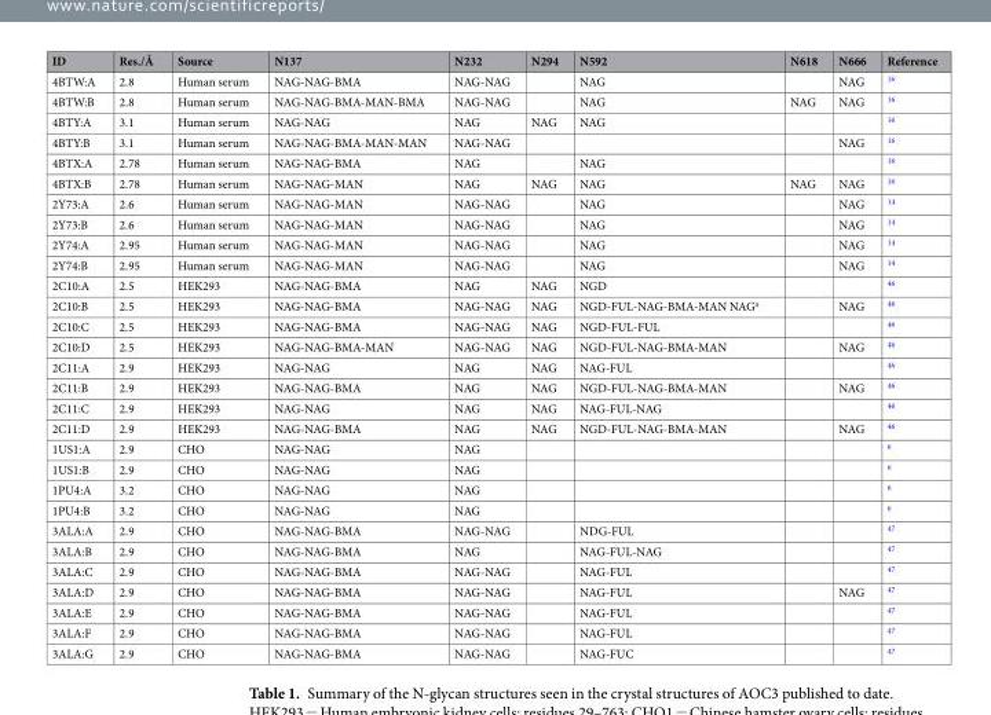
<table><thead><tr><td>ID</td><td>Res./Å</td><td>Source</td><td>N137</td><td>N232</td><td>N294</td><td>N592</td><td>N618</td><td>N666</td><td>Reference</td></tr></thead><tbody><tr><td>4BTW:A</td><td>2.8</td><td>Human serum</td><td>NAG-NAG-BMA</td><td>NAG-NAG</td><td></td><td>NAG</td><td></td><td>NAG</td><td><sup>16</sup></td></tr><tr><td>4BTW:B</td><td>2.8</td><td>Human serum</td><td>NAG-NAG-BMA-MAN-BMA</td><td>NAG-NAG</td><td></td><td>NAG</td><td>NAG</td><td>NAG</td><td><sup>16</sup></td></tr><tr><td>4BTY:A</td><td>3.1</td><td>Human serum</td><td>NAG-NAG</td><td>NAG</td><td>NAG</td><td>NAG</td><td></td><td></td><td><sup>16</sup></td></tr><tr><td>4BTY:B</td><td>3.1</td><td>Human serum</td><td>NAG-NAG-BMA-MAN-MAN</td><td>NAG-NAG</td><td></td><td></td><td></td><td>NAG</td><td><sup>16</sup></td></tr><tr><td>4BTX:A</td><td>2.78</td><td>Human serum</td><td>NAG-NAG-BMA</td><td>NAG</td><td></td><td>NAG</td><td></td><td></td><td><sup>16</sup></td></tr><tr><td>4BTX:B</td><td>2.78</td><td>Human serum</td><td>NAG-NAG-MAN</td><td>NAG</td><td>NAG</td><td>NAG</td><td>NAG</td><td>NAG</td><td><sup>16</sup></td></tr><tr><td>2Y73:A</td><td>2.6</td><td>Human serum</td><td>NAG-NAG-MAN</td><td>NAG-NAG</td><td></td><td>NAG</td><td></td><td>NAG</td><td><sup>14</sup></td></tr><tr><td>2Y73:B</td><td>2.6</td><td>Human serum</td><td>NAG-NAG-MAN</td><td>NAG-NAG</td><td></td><td>NAG</td><td></td><td>NAG</td><td><sup>14</sup></td></tr><tr><td>2Y74:A</td><td>2.95</td><td>Human serum</td><td>NAG-NAG-MAN</td><td>NAG-NAG</td><td></td><td>NAG</td><td></td><td>NAG</td><td><sup>14</sup></td></tr><tr><td>2Y74:B</td><td>2.95</td><td>Human serum</td><td>NAG-NAG-MAN</td><td>NAG-NAG</td><td></td><td>NAG</td><td></td><td>NAG</td><td><sup>14</sup></td></tr><tr><td>2C10:A</td><td>2.5</td><td>HEK293</td><td>NAG-NAG-BMA</td><td>NAG</td><td>NAG</td><td>NGD</td><td></td><td></td><td><sup>46</sup></td></tr><tr><td>2C10:B</td><td>2.5</td><td>HEK293</td><td>NAG-NAG-BMA</td><td>NAG-NAG</td><td>NAG</td><td>NGD-FUL-NAG-BMA-MAN NAG<sup>a</sup></td><td></td><td>NAG</td><td><sup>46</sup></td></tr><tr><td>2C10:C</td><td>2.5</td><td>HEK293</td><td>NAG-NAG-BMA</td><td>NAG-NAG</td><td>NAG</td><td>NGD-FUL-FUL</td><td></td><td></td><td><sup>46</sup></td></tr><tr><td>2C10:D</td><td>2.5</td><td>HEK293</td><td>NAG-NAG-BMA-MAN</td><td>NAG-NAG</td><td>NAG</td><td>NGD-FUL-NAG-BMA-MAN</td><td></td><td>NAG</td><td><sup>46</sup></td></tr><tr><td>2C11:A</td><td>2.9</td><td>HEK293</td><td>NAG-NAG</td><td>NAG</td><td>NAG</td><td>NAG-FUL</td><td></td><td></td><td><sup>46</sup></td></tr><tr><td>2C11:B</td><td>2.9</td><td>HEK293</td><td>NAG-NAG-BMA</td><td>NAG</td><td>NAG</td><td>NGD-FUL-NAG-BMA-MAN</td><td></td><td>NAG</td><td><sup>46</sup></td></tr><tr><td>2C11:C</td><td>2.9</td><td>HEK293</td><td>NAG-NAG</td><td>NAG</td><td>NAG</td><td>NAG-FUL-NAG</td><td></td><td></td><td><sup>46</sup></td></tr><tr><td>2C11:D</td><td>2.9</td><td>HEK293</td><td>NAG-NAG-BMA</td><td>NAG</td><td>NAG</td><td>NGD-FUL-NAG-BMA-MAN</td><td></td><td>NAG</td><td><sup>46</sup></td></tr><tr><td>1US1:A</td><td>2.9</td><td>CHO</td><td>NAG-NAG</td><td>NAG</td><td></td><td></td><td></td><td></td><td><sup>6</sup></td></tr><tr><td>1US1:B</td><td>2.9</td><td>CHO</td><td>NAG-NAG</td><td>NAG</td><td></td><td></td><td></td><td></td><td><sup>6</sup></td></tr><tr><td>1PU4:A</td><td>3.2</td><td>CHO</td><td>NAG-NAG</td><td>NAG</td><td></td><td></td><td></td><td></td><td><sup>6</sup></td></tr><tr><td>1PU4:B</td><td>3.2</td><td>CHO</td><td>NAG-NAG</td><td>NAG</td><td></td><td></td><td></td><td></td><td><sup>6</sup></td></tr><tr><td>3ALA:A</td><td>2.9</td><td>CHO</td><td>NAG-NAG-BMA</td><td>NAG-NAG</td><td></td><td>NDG-FUL</td><td></td><td></td><td><sup>47</sup></td></tr><tr><td>3ALA:B</td><td>2.9</td><td>CHO</td><td>NAG-NAG-BMA</td><td>NAG</td><td></td><td>NAG-FUL-NAG</td><td></td><td></td><td><sup>47</sup></td></tr><tr><td>3ALA:C</td><td>2.9</td><td>CHO</td><td>NAG-NAG-BMA</td><td>NAG-NAG</td><td></td><td>NAG-FUL</td><td></td><td></td><td><sup>47</sup></td></tr><tr><td>3ALA:D</td><td>2.9</td><td>CHO</td><td>NAG-NAG-BMA</td><td>NAG-NAG</td><td></td><td>NAG-FUL</td><td></td><td>NAG</td><td><sup>47</sup></td></tr><tr><td>3ALA:E</td><td>2.9</td><td>CHO</td><td>NAG-NAG-BMA</td><td>NAG-NAG</td><td></td><td>NAG-FUL</td><td></td><td></td><td><sup>47</sup></td></tr><tr><td>3ALA:F</td><td>2.9</td><td>CHO</td><td>NAG-NAG-BMA</td><td>NAG-NAG</td><td></td><td>NAG-FUL</td><td></td><td></td><td><sup>47</sup></td></tr><tr><td>3ALA:G</td><td>2.9</td><td>CHO</td><td>NAG-NAG-BMA</td><td>NAG-NAG</td><td></td><td>NAG-FUC</td><td></td><td></td><td><sup>47</sup></td></tr></tbody></table>